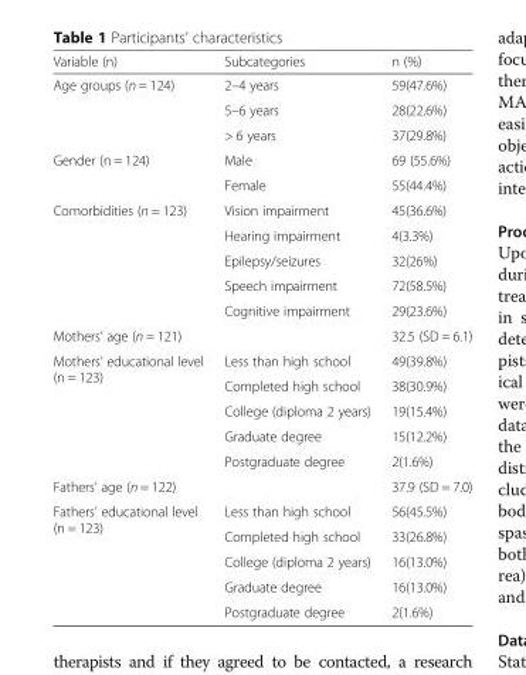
<table><thead><tr><td>Variable (n)</td><td>Subcategories</td><td>n (%)</td></tr></thead><tbody><tr><td rowspan="3">Age groups (n = 124)</td><td>2–4 years</td><td>59(47.6%)</td></tr><tr><td>5–6 years</td><td>28(22.6%)</td></tr><tr><td>&gt; 6 years</td><td>37(29.8%)</td></tr><tr><td rowspan="2">Gender (n = 124)</td><td>Male</td><td>69 (55.6%)</td></tr><tr><td>Female</td><td>55(44.4%)</td></tr><tr><td rowspan="5">Comorbidities (n = 123)</td><td>Vision impairment</td><td>45(36.6%)</td></tr><tr><td>Hearing impairment</td><td>4(3.3%)</td></tr><tr><td>Epilepsy/seizures</td><td>32(26%)</td></tr><tr><td>Speech impairment</td><td>72(58.5%)</td></tr><tr><td>Cognitive impairment</td><td>29(23.6%)</td></tr><tr><td>Mothers’ age (n = 121)</td><td></td><td>32.5 (SD = 6.1)</td></tr><tr><td rowspan="5">Mothers’ educational level (n = 123)</td><td>Less than high school</td><td>49(39.8%)</td></tr><tr><td>Completed high school</td><td>38(30.9%)</td></tr><tr><td>College (diploma 2 years)</td><td>19(15.4%)</td></tr><tr><td>Graduate degree</td><td>15(12.2%)</td></tr><tr><td>Postgraduate degree</td><td>2(1.6%)</td></tr><tr><td>Fathers’ age (n = 122)</td><td></td><td>37.9 (SD = 7.0)</td></tr><tr><td rowspan="5">Fathers’ educational level (n = 123)</td><td>Less than high school</td><td>56(45.5%)</td></tr><tr><td>Completed high school</td><td>33(26.8%)</td></tr><tr><td>College (diploma 2 years)</td><td>16(13.0%)</td></tr><tr><td>Graduate degree</td><td>16(13.0%)</td></tr><tr><td>Postgraduate degree</td><td>2(1.6%)</td></tr></tbody></table>